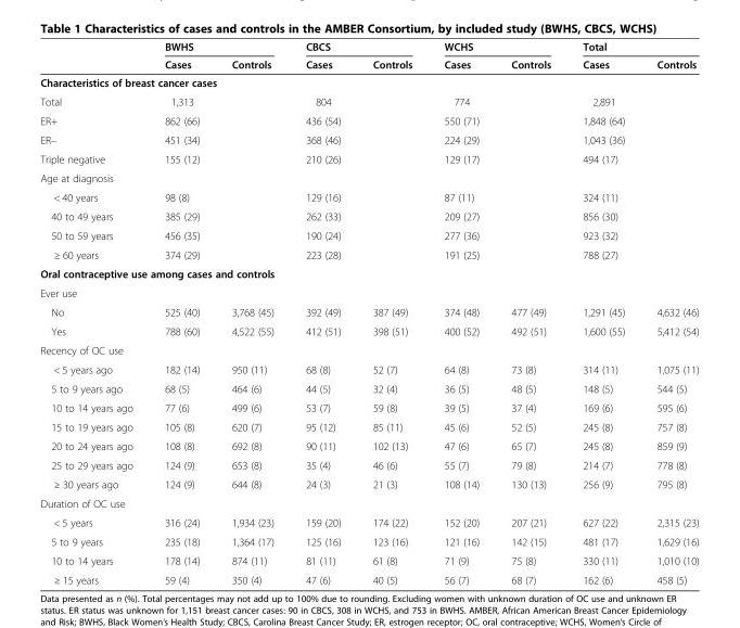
<table><thead><tr><td rowspan="2"></td><td colspan="2">BWHS</td><td colspan="2">CBCS</td><td colspan="2">WCHS</td><td colspan="2">Total</td></tr><tr><td>Cases</td><td>Controls</td><td>Cases</td><td>Controls</td><td>Cases</td><td>Controls</td><td>Cases</td><td>Controls</td></tr></thead><tbody><tr><td colspan="9">Characteristics of breast cancer cases</td></tr><tr><td>Total</td><td>1,313</td><td></td><td>804</td><td></td><td>774</td><td></td><td>2,891</td><td></td></tr><tr><td>ER+</td><td>862 (66)</td><td></td><td>436 (54)</td><td></td><td>550 (71)</td><td></td><td>1,848 (64)</td><td></td></tr><tr><td>ER–</td><td>451 (34)</td><td></td><td>368 (46)</td><td></td><td>224 (29)</td><td></td><td>1,043 (36)</td><td></td></tr><tr><td>Triple negative</td><td>155 (12)</td><td></td><td>210 (26)</td><td></td><td>129 (17)</td><td></td><td>494 (17)</td><td></td></tr><tr><td colspan="9">Age at diagnosis</td></tr><tr><td>&lt; 40 years</td><td>98 (8)</td><td></td><td>129 (16)</td><td></td><td>87 (11)</td><td></td><td>324 (11)</td><td></td></tr><tr><td>40 to 49 years</td><td>385 (29)</td><td></td><td>262 (33)</td><td></td><td>209 (27)</td><td></td><td>856 (30)</td><td></td></tr><tr><td>50 to 59 years</td><td>456 (35)</td><td></td><td>190 (24)</td><td></td><td>277 (36)</td><td></td><td>923 (32)</td><td></td></tr><tr><td>≥ 60 years</td><td>374 (29)</td><td></td><td>223 (28)</td><td></td><td>191 (25)</td><td></td><td>788 (27)</td><td></td></tr><tr><td colspan="9">Oral contraceptive use among cases and controls</td></tr><tr><td colspan="9">Ever use</td></tr><tr><td>No</td><td>525 (40)</td><td>3,768 (45)</td><td>392 (49)</td><td>387 (49)</td><td>374 (48)</td><td>477 (49)</td><td>1,291 (45)</td><td>4,632 (46)</td></tr><tr><td>Yes</td><td>788 (60)</td><td>4,522 (55)</td><td>412 (51)</td><td>398 (51)</td><td>400 (52)</td><td>492 (51)</td><td>1,600 (55)</td><td>5,412 (54)</td></tr><tr><td colspan="9">Recency of OC use</td></tr><tr><td>&lt; 5 years ago</td><td>182 (14)</td><td>950 (11)</td><td>68 (8)</td><td>52 (7)</td><td>64 (8)</td><td>73 (8)</td><td>314 (11)</td><td>1,075 (11)</td></tr><tr><td>5 to 9 years ago</td><td>68 (5)</td><td>464 (6)</td><td>44 (5)</td><td>32 (4)</td><td>36 (5)</td><td>48 (5)</td><td>148 (5)</td><td>544 (5)</td></tr><tr><td>10 to 14 years ago</td><td>77 (6)</td><td>499 (6)</td><td>53 (7)</td><td>59 (8)</td><td>39 (5)</td><td>37 (4)</td><td>169 (6)</td><td>595 (6)</td></tr><tr><td>15 to 19 years ago</td><td>105 (8)</td><td>620 (7)</td><td>95 (12)</td><td>85 (11)</td><td>45 (6)</td><td>52 (5)</td><td>245 (8)</td><td>757 (8)</td></tr><tr><td>20 to 24 years ago</td><td>108 (8)</td><td>692 (8)</td><td>90 (11)</td><td>102 (13)</td><td>47 (6)</td><td>65 (7)</td><td>245 (8)</td><td>859 (9)</td></tr><tr><td>25 to 29 years ago</td><td>124 (9)</td><td>653 (8)</td><td>35 (4)</td><td>46 (6)</td><td>55 (7)</td><td>79 (8)</td><td>214 (7)</td><td>778 (8)</td></tr><tr><td>≥ 30 years ago</td><td>124 (9)</td><td>644 (8)</td><td>24 (3)</td><td>21 (3)</td><td>108 (14)</td><td>130 (13)</td><td>256 (9)</td><td>795 (8)</td></tr><tr><td colspan="9">Duration of OC use</td></tr><tr><td>&lt; 5 years</td><td>316 (24)</td><td>1,934 (23)</td><td>159 (20)</td><td>174 (22)</td><td>152 (20)</td><td>207 (21)</td><td>627 (22)</td><td>2,315 (23)</td></tr><tr><td>5 to 9 years</td><td>235 (18)</td><td>1,364 (17)</td><td>125 (16)</td><td>123 (16)</td><td>121 (16)</td><td>142 (15)</td><td>481 (17)</td><td>1,629 (16)</td></tr><tr><td>10 to 14 years</td><td>178 (14)</td><td>874 (11)</td><td>81 (11)</td><td>61 (8)</td><td>71 (9)</td><td>75 (8)</td><td>330 (11)</td><td>1,010 (10)</td></tr><tr><td>≥ 15 years</td><td>59 (4)</td><td>350 (4)</td><td>47 (6)</td><td>40 (5)</td><td>56 (7)</td><td>68 (7)</td><td>162 (6)</td><td>458 (5)</td></tr></tbody></table>